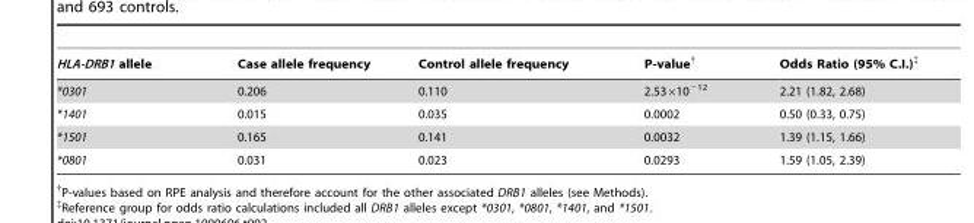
<table><thead><tr><td>HLA-DRB1 allele</td><td>Case allele frequency</td><td>Control allele frequency</td><td>P-value†</td><td>Odds Ratio (95% C.I.)‡</td></tr></thead><tbody><tr><td>*0301</td><td>0.206</td><td>0.110</td><td>2.53×10<sup>−12</sup></td><td>2.21 (1.82, 2.68)</td></tr><tr><td>*1401</td><td>0.015</td><td>0.035</td><td>0.0002</td><td>0.50 (0.33, 0.75)</td></tr><tr><td>*1501</td><td>0.165</td><td>0.141</td><td>0.0032</td><td>1.39 (1.15, 1.66)</td></tr><tr><td>*0801</td><td>0.031</td><td>0.023</td><td>0.0293</td><td>1.59 (1.05, 2.39)</td></tr></tbody></table>